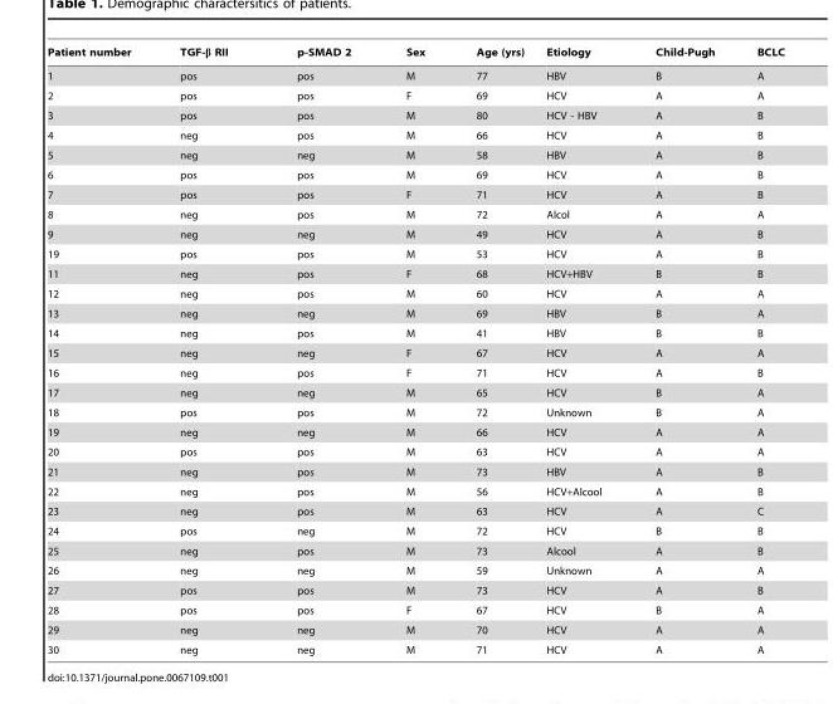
<table><thead><tr><td>Patient number</td><td>TGF-β RII</td><td>p-SMAD 2</td><td>Sex</td><td>Age (yrs)</td><td>Etiology</td><td>Child-Pugh</td><td>BCLC</td></tr></thead><tbody><tr><td>1</td><td>pos</td><td>pos</td><td>M</td><td>77</td><td>HBV</td><td>B</td><td>A</td></tr><tr><td>2</td><td>pos</td><td>pos</td><td>F</td><td>69</td><td>HCV</td><td>A</td><td>A</td></tr><tr><td>3</td><td>pos</td><td>pos</td><td>M</td><td>80</td><td>HCV - HBV</td><td>A</td><td>B</td></tr><tr><td>4</td><td>neg</td><td>pos</td><td>M</td><td>66</td><td>HCV</td><td>A</td><td>B</td></tr><tr><td>5</td><td>neg</td><td>neg</td><td>M</td><td>58</td><td>HBV</td><td>A</td><td>B</td></tr><tr><td>6</td><td>pos</td><td>pos</td><td>M</td><td>69</td><td>HCV</td><td>A</td><td>B</td></tr><tr><td>7</td><td>pos</td><td>pos</td><td>F</td><td>71</td><td>HCV</td><td>A</td><td>B</td></tr><tr><td>8</td><td>neg</td><td>pos</td><td>M</td><td>72</td><td>Alcol</td><td>A</td><td>A</td></tr><tr><td>9</td><td>neg</td><td>neg</td><td>M</td><td>49</td><td>HCV</td><td>A</td><td>B</td></tr><tr><td>19</td><td>pos</td><td>pos</td><td>M</td><td>53</td><td>HCV</td><td>A</td><td>B</td></tr><tr><td>11</td><td>neg</td><td>pos</td><td>F</td><td>68</td><td>HCV+HBV</td><td>B</td><td>B</td></tr><tr><td>12</td><td>neg</td><td>pos</td><td>M</td><td>60</td><td>HCV</td><td>A</td><td>A</td></tr><tr><td>13</td><td>neg</td><td>neg</td><td>M</td><td>69</td><td>HBV</td><td>B</td><td>A</td></tr><tr><td>14</td><td>neg</td><td>pos</td><td>M</td><td>41</td><td>HBV</td><td>B</td><td>B</td></tr><tr><td>15</td><td>neg</td><td>neg</td><td>F</td><td>67</td><td>HCV</td><td>A</td><td>A</td></tr><tr><td>16</td><td>neg</td><td>pos</td><td>F</td><td>71</td><td>HCV</td><td>A</td><td>B</td></tr><tr><td>17</td><td>neg</td><td>neg</td><td>M</td><td>65</td><td>HCV</td><td>B</td><td>A</td></tr><tr><td>18</td><td>pos</td><td>pos</td><td>M</td><td>72</td><td>Unknown</td><td>B</td><td>A</td></tr><tr><td>19</td><td>neg</td><td>neg</td><td>M</td><td>66</td><td>HCV</td><td>A</td><td>A</td></tr><tr><td>20</td><td>pos</td><td>pos</td><td>M</td><td>63</td><td>HCV</td><td>A</td><td>A</td></tr><tr><td>21</td><td>neg</td><td>pos</td><td>M</td><td>73</td><td>HBV</td><td>A</td><td>B</td></tr><tr><td>22</td><td>neg</td><td>pos</td><td>M</td><td>56</td><td>HCV+Alcool</td><td>A</td><td>B</td></tr><tr><td>23</td><td>neg</td><td>pos</td><td>M</td><td>63</td><td>HCV</td><td>A</td><td>C</td></tr><tr><td>24</td><td>pos</td><td>neg</td><td>M</td><td>72</td><td>HCV</td><td>B</td><td>B</td></tr><tr><td>25</td><td>neg</td><td>pos</td><td>M</td><td>73</td><td>Alcool</td><td>A</td><td>B</td></tr><tr><td>26</td><td>neg</td><td>neg</td><td>M</td><td>59</td><td>Unknown</td><td>A</td><td>A</td></tr><tr><td>27</td><td>pos</td><td>pos</td><td>M</td><td>73</td><td>HCV</td><td>A</td><td>B</td></tr><tr><td>28</td><td>pos</td><td>pos</td><td>F</td><td>67</td><td>HCV</td><td>B</td><td>A</td></tr><tr><td>29</td><td>neg</td><td>neg</td><td>M</td><td>70</td><td>HCV</td><td>A</td><td>A</td></tr><tr><td>30</td><td>neg</td><td>neg</td><td>M</td><td>71</td><td>HCV</td><td>A</td><td>A</td></tr></tbody></table>